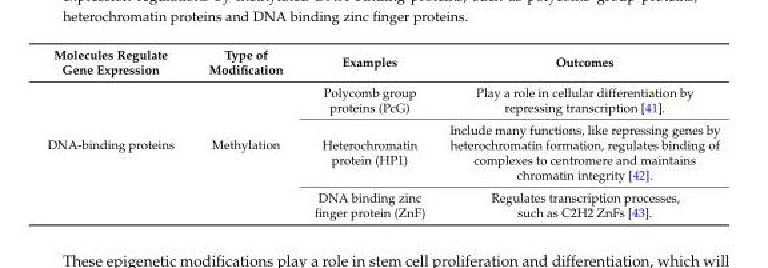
<table><thead><tr><td>Molecules Regulate Gene Expression</td><td>Type of Modification</td><td>Examples</td><td>Outcomes</td></tr></thead><tbody><tr><td rowspan="3">DNA-binding proteins</td><td rowspan="3">Methylation</td><td>Polycomb group proteins (PcG)</td><td>Play a role in cellular differentiation by repressing transcription [41].</td></tr><tr><td>Heterochromatin protein (HP1)</td><td>Include many functions, like repressing genes by heterochromatin formation, regulates binding of complexes to centromere and maintains chromatin integrity [42].</td></tr><tr><td>DNA binding zinc finger protein (ZnF)</td><td>Regulates transcription processes, such as C2H2 ZnFs [43].</td></tr></tbody></table>